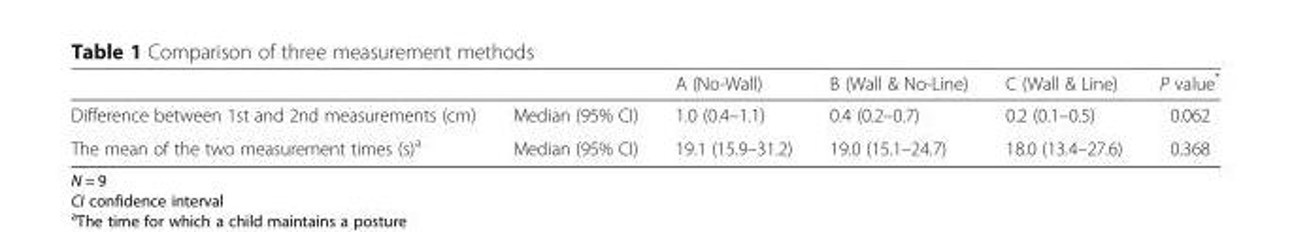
<table><thead><tr><td></td><td></td><td>A (No-Wall)</td><td>B (Wall &amp; No-Line)</td><td>C (Wall &amp; Line)</td><td>P value*</td></tr></thead><tbody><tr><td>Difference between 1st and 2nd measurements (cm)</td><td>Median (95% CI)</td><td>1.0 (0.4–1.1)</td><td>0.4 (0.2–0.7)</td><td>0.2 (0.1–0.5)</td><td>0.062</td></tr><tr><td>The mean of the two measurement times (s)<sup>a</sup></td><td>Median (95% CI)</td><td>19.1 (15.9–31.2)</td><td>19.0 (15.1–24.7)</td><td>18.0 (13.4–27.6)</td><td>0.368</td></tr></tbody></table>